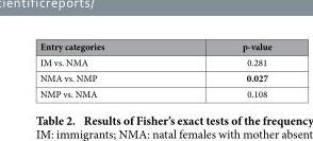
<table><thead><tr><td>Entry categories</td><td>p-value</td></tr></thead><tbody><tr><td>IM vs. NMA</td><td>0.281</td></tr><tr><td>NMA vs. NMP</td><td>0.027</td></tr><tr><td>NMP vs. NMA</td><td>0.108</td></tr></tbody></table>